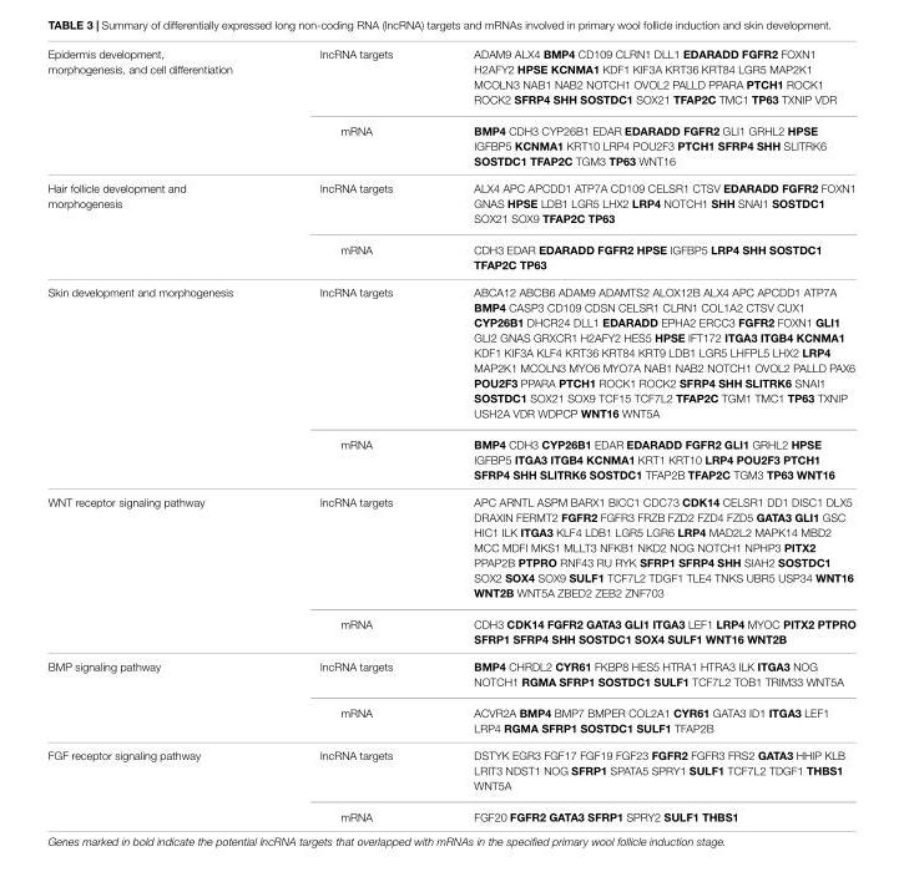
<table><tbody><tr><td rowspan="2">Epidermis development, morphogenesis, and cell differentiation</td><td>lncRNA targets</td><td>ADAM9 ALX4 BMP4 CD109 CLRN1 DLL1 EDARADD FGFR2 FOXN1 H2AFY2 HPSE KCNMA1 KDF1 KIF3A KRT36 KRT84 LGR5 MAP2K1 MCOLN3 NAB1 NAB2 NOTCH1 OVOL2 PALLD PPARA PTCH1 ROCK1 ROCK2 SFRP4 SHH SOSTDC1 SOX21 TFAP2C TMC1 TP63 TXNIP VDR</td></tr><tr><td>mRNA</td><td>BMP4 CDH3 CYP26B1 EDAR EDARADD FGFR2 GLI1 GRHL2 HPSE IGFBP5 KCNMA1 KRT10 LRP4 POU2F3 PTCH1 SFRP4 SHH SLITRK6 SOSTDC1 TFAP2C TGM3 TP63 WNT16</td></tr><tr><td rowspan="2">Hair follicle development and morphogenesis</td><td>lncRNA targets</td><td>ALX4 APC APCDD1 ATP7A CD109 CELSR1 CTSV EDARADD FGFR2 FOXN1 GNAS HPSE LDB1 LGR5 LHX2 LRP4 NOTCH1 SHH SNAI1 SOSTDC1 SOX21 SOX9 TFAP2C TP63</td></tr><tr><td>mRNA</td><td>CDH3 EDAR EDARADD FGFR2 HPSE IGFBP5 LRP4 SHH SOSTDC1 TFAP2C TP63</td></tr><tr><td rowspan="2">Skin development and morphogenesis</td><td>lncRNA targets</td><td>ABCA12 ABCB6 ADAM9 ADAMTS2 ALOX12B ALX4 APC APCDD1 ATP7A BMP4 CASP3 CD109 CDSN CELSR1 CLRN1 COL1A2 CTSV CUX1 CYP26B1 DHCR24 DLL1 EDARADD EPHA2 ERCC3 FGFR2 FOXN1 GLI1 GLI2 GNAS GRXCR1 H2AFY2 HES5 HPSE IFT172 ITGA3 ITGB4 KCNMA1 KDF1 KIF3A KLF4 KRT36 KRT84 KRT9 LDB1 LGR5 LHFPL5 LHX2 LRP4 MAP2K1 MCOLN3 MYO6 MYO7A NAB1 NAB2 NOTCH1 OVOL2 PALLD PAX6 POU2F3 PPARA PTCH1 ROCK1 ROCK2 SFRP4 SHH SLITRK6 SNAI1 SOSTDC1 SOX21 SOX9 TCF15 TCF7L2 TFAP2C TGM1 TMC1 TP63 TXNIP USH2A VDR WDPCP WNT16 WNT5A</td></tr><tr><td>mRNA</td><td>BMP4 CDH3 CYP26B1 EDAR EDARADD FGFR2 GLI1 GRHL2 HPSE IGFBP5 ITGA3 ITGB4 KCNMA1 KRT1 KRT10 LRP4 POU2F3 PTCH1 SFRP4 SHH SLITRK6 SOSTDC1 TFAP2B TFAP2C TGM3 TP63 WNT16</td></tr><tr><td rowspan="2">WNT receptor signaling pathway</td><td>lncRNA targets</td><td>APC ARNTL ASPM BARX1 BICC1 CDC73 CDK14 CELSR1 DD1 DISC1 DLX5 DRAXIN FERMT2 FGFR2 FGFR3 FRZB FZD2 FZD4 FZD5 GATA3 GLI1 GSC HIC1 ILK ITGA3 KLF4 LDB1 LGR5 LGR6 LRP4 MAD2L2 MAPK14 MBD2 MCC MDFI MKS1 MLLT3 NFKB1 NKD2 NOG NOTCH1 NPHP3 PITX2 PPAP2B PTPRO RNF43 RU RYK SFRP1 SFRP4 SHH SIAH2 SOSTDC1 SOX2 SOX4 SOX9 SULF1 TCF7L2 TDGF1 TLE4 TNKS UBR5 USP34 WNT16 WNT2B WNT5A ZBED2 ZEB2 ZNF703</td></tr><tr><td>mRNA</td><td>CDH3 CDK14 FGFR2 GATA3 GLI1 ITGA3 LEF1 LRP4 MYOC PITX2 PTPRO SFRP1 SFRP4 SHH SOSTDC1 SOX4 SULF1 WNT16 WNT2B</td></tr><tr><td rowspan="2">BMP signaling pathway</td><td>lncRNA targets</td><td>BMP4 CHRDL2 CYR61 FKBP8 HES5 HTRA1 HTRA3 ILK ITGA3 NOG NOTCH1 RGMA SFRP1 SOSTDC1 SULF1 TCF7L2 TOB1 TRIM33 WNT5A</td></tr><tr><td>mRNA</td><td>ACVR2A BMP4 BMP7 BMPER COL2A1 CYR61 GATA3 ID1 ITGA3 LEF1 LRP4 RGMA SFRP1 SOSTDC1 SULF1 TFAP2B</td></tr><tr><td rowspan="2">FGF receptor signaling pathway</td><td>lncRNA targets</td><td>DSTYK EGR3 FGF17 FGF19 FGF23 FGFR2 FGFR3 FRS2 GATA3 HHIP KLB LRIT3 NDST1 NOG SFRP1 SPATA5 SPRY1 SULF1 TCF7L2 TDGF1 THBS1 WNT5A</td></tr><tr><td>mRNA</td><td>FGF20 FGFR2 GATA3 SFRP1 SPRY2 SULF1 THBS1</td></tr></tbody></table>